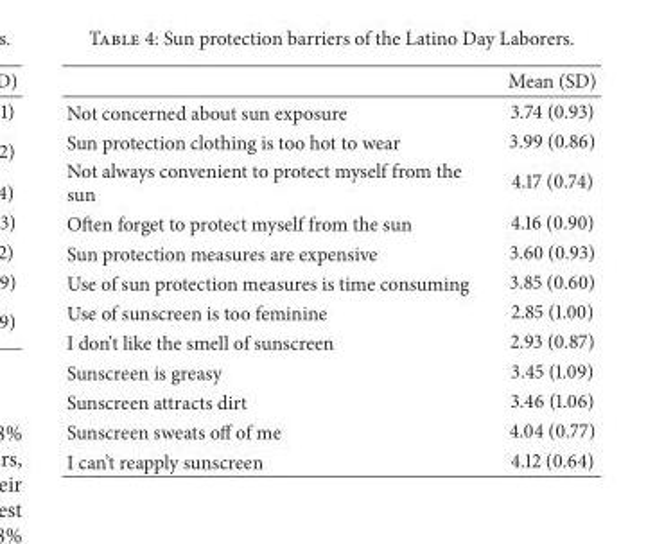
<table><thead><tr><td></td><td>Mean (SD)</td></tr></thead><tbody><tr><td>Not concerned about sun exposure</td><td>3.74 (0.93)</td></tr><tr><td>Sun protection clothing is too hot to wear</td><td>3.99 (0.86)</td></tr><tr><td>Not always convenient to protect myself from the sun</td><td>4.17 (0.74)</td></tr><tr><td>Often forget to protect myself from the sun</td><td>4.16 (0.90)</td></tr><tr><td>Sun protection measures are expensive</td><td>3.60 (0.93)</td></tr><tr><td>Use of sun protection measures is time consuming</td><td>3.85 (0.60)</td></tr><tr><td>Use of sunscreen is too feminine</td><td>2.85 (1.00)</td></tr><tr><td>I don’t like the smell of sunscreen</td><td>2.93 (0.87)</td></tr><tr><td>Sunscreen is greasy</td><td>3.45 (1.09)</td></tr><tr><td>Sunscreen attracts dirt</td><td>3.46 (1.06)</td></tr><tr><td>Sunscreen sweats off of me</td><td>4.04 (0.77)</td></tr><tr><td>I can’t reapply sunscreen</td><td>4.12 (0.64)</td></tr></tbody></table>